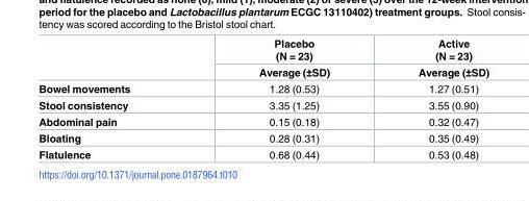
<table><thead><tr><td rowspan="2"></td><td rowspan="2">Placebo (N = 23) Average (±SD)</td><td rowspan="2">Active (N = 23) Average (±SD)</td></tr><tr></tr></thead><tbody><tr><td>Bowel movements</td><td>1.28 (0.53)</td><td>1.27 (0.51)</td></tr><tr><td>Stool consistency</td><td>3.35 (1.25)</td><td>3.55 (0.90)</td></tr><tr><td>Abdominal pain</td><td>0.15 (0.18)</td><td>0.32 (0.47)</td></tr><tr><td>Bloating</td><td>0.28 (0.31)</td><td>0.35 (0.49)</td></tr><tr><td>Flatulence</td><td>0.68 (0.44)</td><td>0.53 (0.48)</td></tr></tbody></table>